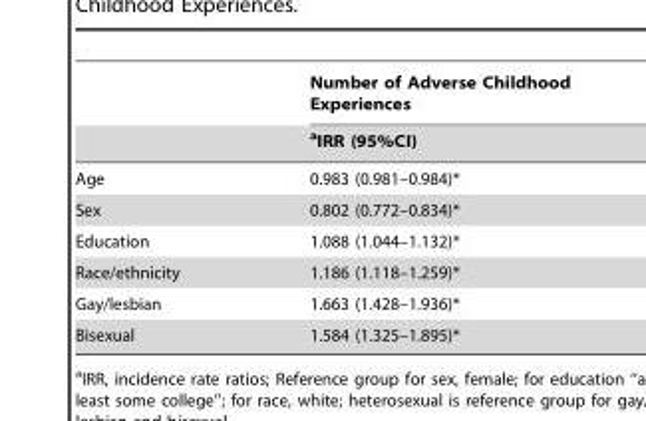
<table><thead><tr><td rowspan="2"></td><td rowspan="2">Number of Adverse Childhood Experiences aIRR (95%CI)</td></tr><tr></tr></thead><tbody><tr><td>Age</td><td>0.983 (0.981–0.984)*</td></tr><tr><td>Sex</td><td>0.802 (0.772–0.834)*</td></tr><tr><td>Education</td><td>1.088 (1.044–1.132)*</td></tr><tr><td>Race/ethnicity</td><td>1.186 (1.118–1.259)*</td></tr><tr><td>Gay/lesbian</td><td>1.663 (1.428–1.936)*</td></tr><tr><td>Bisexual</td><td>1.584 (1.325–1.895)*</td></tr></tbody></table>